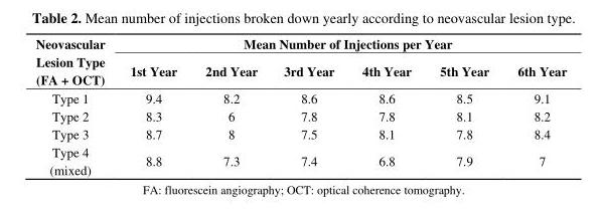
<table><thead><tr><td rowspan="2">Neovascular Lesion Type (FA + OCT)</td><td colspan="6">Mean Number of Injections per Year</td></tr><tr><td>1st Year</td><td>2nd Year</td><td>3rd Year</td><td>4th Year</td><td>5th Year</td><td>6th Year</td></tr></thead><tbody><tr><td>Type 1</td><td>9.4</td><td>8.2</td><td>8.6</td><td>8.6</td><td>8.5</td><td>9.1</td></tr><tr><td>Type 2</td><td>8.3</td><td>6</td><td>7.8</td><td>7.8</td><td>8.1</td><td>8.2</td></tr><tr><td>Type 3</td><td>8.7</td><td>8</td><td>7.5</td><td>8.1</td><td>7.8</td><td>8.4</td></tr><tr><td>Type 4 (mixed)</td><td>8.8</td><td>7.3</td><td>7.4</td><td>6.8</td><td>7.9</td><td>7</td></tr></tbody></table>